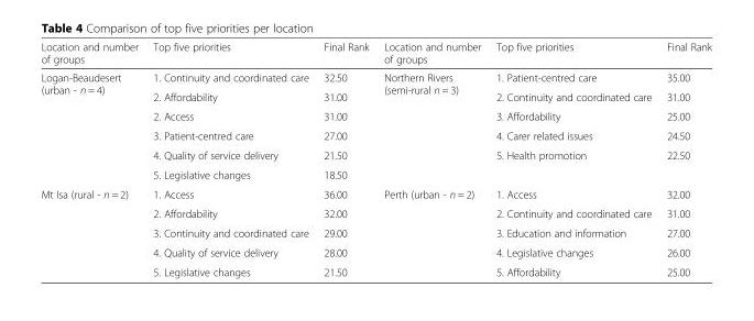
<table><thead><tr><td>Location and number of groups</td><td>Top five priorities</td><td>Final Rank</td><td>Location and number of groups</td><td>Top five priorities</td><td>Final Rank</td></tr></thead><tbody><tr><td rowspan="6">Logan-Beaudesert (urban - n = 4)</td><td>1. Continuity and coordinated care</td><td>32.50</td><td rowspan="6">Northern Rivers (semi-rural n = 3)</td><td>1. Patient-centred care</td><td>35.00</td></tr><tr><td>2. Affordability</td><td>31.00</td><td>2. Continuity and coordinated care</td><td>31.00</td></tr><tr><td>2. Access</td><td>31.00</td><td>3. Affordability</td><td>25.00</td></tr><tr><td>3. Patient-centred care</td><td>27.00</td><td>4. Carer related issues</td><td>24.50</td></tr><tr><td>4. Quality of service delivery</td><td>21.50</td><td>5. Health promotion</td><td>22.50</td></tr><tr><td>5. Legislative changes</td><td>18.50</td><td></td><td></td></tr><tr><td rowspan="5">Mt Isa (rural - n = 2)</td><td>1. Access</td><td>36.00</td><td rowspan="5">Perth (urban - n = 2)</td><td>1. Access</td><td>32.00</td></tr><tr><td>2. Affordability</td><td>32.00</td><td>2. Continuity and coordinated care</td><td>31.00</td></tr><tr><td>3. Continuity and coordinated care</td><td>29.00</td><td>3. Education and information</td><td>27.00</td></tr><tr><td>4. Quality of service delivery</td><td>28.00</td><td>4. Legislative changes</td><td>26.00</td></tr><tr><td>5. Legislative changes</td><td>21.50</td><td>5. Affordability</td><td>25.00</td></tr></tbody></table>